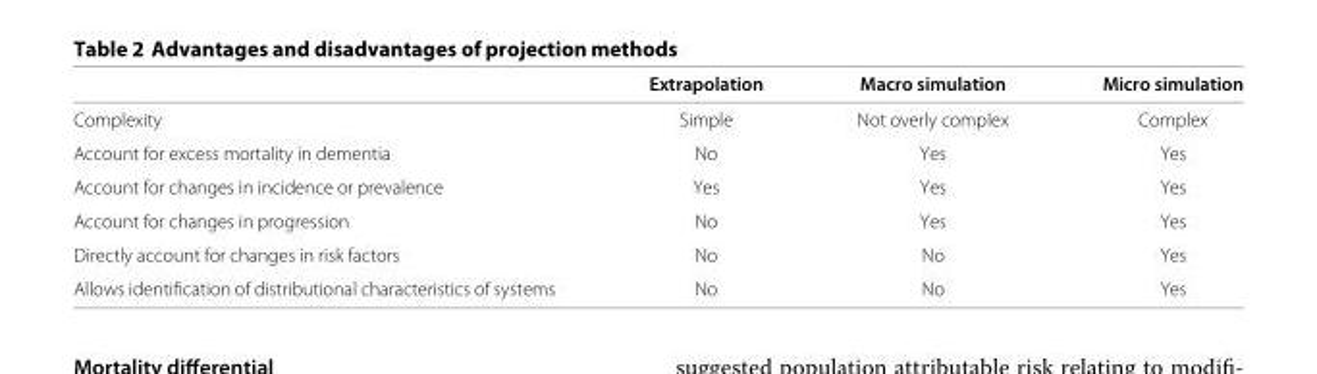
<table><thead><tr><td></td><td>Extrapolation</td><td>Macro simulation</td><td>Micro simulation</td></tr></thead><tbody><tr><td>Complexity</td><td>Simple</td><td>Not overly complex</td><td>Complex</td></tr><tr><td>Account for excess mortality in dementia</td><td>No</td><td>Yes</td><td>Yes</td></tr><tr><td>Account for changes in incidence or prevalence</td><td>Yes</td><td>Yes</td><td>Yes</td></tr><tr><td>Account for changes in progression</td><td>No</td><td>Yes</td><td>Yes</td></tr><tr><td>Directly account for changes in risk factors</td><td>No</td><td>No</td><td>Yes</td></tr><tr><td>Allows identification of distributional characteristics of systems</td><td>No</td><td>No</td><td>Yes</td></tr></tbody></table>